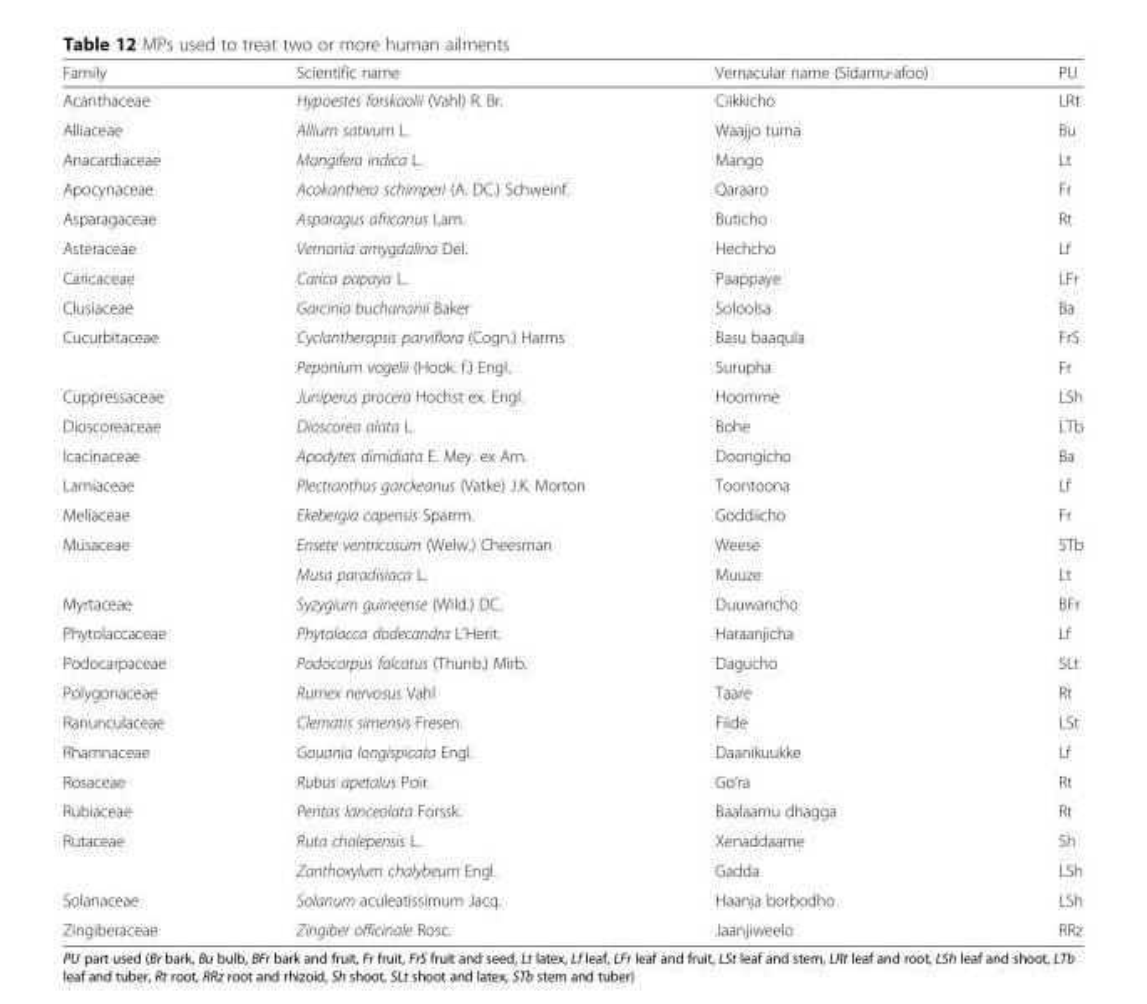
<table><thead><tr><td>Family</td><td>Scientific name</td><td>Vernacular name (Sidamu-afoo)</td><td>PU</td></tr></thead><tbody><tr><td>Acanthaceae</td><td>Hypoestes forskaolii (Vahl) R. Br.</td><td>Ciikkicho</td><td>LRt</td></tr><tr><td>Alliaceae</td><td>Allium sativum L.</td><td>Waajjo tuma</td><td>Bu</td></tr><tr><td>Anacardiaceae</td><td>Mangifera indica L.</td><td>Mango</td><td>Lt</td></tr><tr><td>Apocynaceae</td><td>Acokanthera schimperi (A. DC.) Schweinf.</td><td>Qaraaro</td><td>Fr</td></tr><tr><td>Asparagaceae</td><td>Asparagus africanus Lam.</td><td>Buticho</td><td>Rt</td></tr><tr><td>Asteraceae</td><td>Vernonia amygdalina Del.</td><td>Hechcho</td><td>Lf</td></tr><tr><td>Caricaceae</td><td>Carica papaya L.</td><td>Paappaye</td><td>LFr</td></tr><tr><td>Clusiaceae</td><td>Garcinia buchananii Baker</td><td>Soloolsa</td><td>Ba</td></tr><tr><td rowspan="2">Cucurbitaceae</td><td>Cyclantheropsis parviflora (Cogn.) Harms</td><td>Basu baaqula</td><td>FrS</td></tr><tr><td>Peponium vogelii (Hook. f.) Engl.</td><td>Surupha</td><td>Fr</td></tr><tr><td>Cuppressaceae</td><td>Juniperus procera Hochst ex. Engl.</td><td>Hoomme</td><td>LSh</td></tr><tr><td>Dioscoreaceae</td><td>Dioscorea alata L.</td><td>Bohe</td><td>LTb</td></tr><tr><td>Icacinaceae</td><td>Apodytes dimidiata E. Mey. ex Arn.</td><td>Doongicho</td><td>Ba</td></tr><tr><td>Lamiaceae</td><td>Plectranthus garckeanus (Vatke) J.K. Morton</td><td>Toontoona</td><td>Lf</td></tr><tr><td>Meliaceae</td><td>Ekebergia capensis Sparrm.</td><td>Goddiicho</td><td>Fr</td></tr><tr><td rowspan="2">Musaceae</td><td>Ensete ventricosum (Welw.) Cheesman</td><td>Weese</td><td>STb</td></tr><tr><td>Musa paradisiaca L.</td><td>Muuze</td><td>Lt</td></tr><tr><td>Myrtaceae</td><td>Syzygium guineense (Wild.) DC.</td><td>Duuwancho</td><td>BFr</td></tr><tr><td>Phytolaccaceae</td><td>Phytolacca dodecandra L’Herit.</td><td>Haraanjicha</td><td>Lf</td></tr><tr><td>Podocarpaceae</td><td>Podocarpus falcatus (Thunb.) Mirb.</td><td>Dagucho</td><td>SLt</td></tr><tr><td>Polygonaceae</td><td>Rumex nervosus Vahl</td><td>Taare</td><td>Rt</td></tr><tr><td>Ranunculaceae</td><td>Clematis simensis Fresen.</td><td>Fiide</td><td>LSt</td></tr><tr><td>Rhamnaceae</td><td>Gouania longispicata Engl.</td><td>Daanikuukke</td><td>Lf</td></tr><tr><td>Rosaceae</td><td>Rubus apetalus Poir.</td><td>Go’ra</td><td>Rt</td></tr><tr><td>Rubiaceae</td><td>Pentas lanceolata Forssk.</td><td>Baalaamu dhagga</td><td>Rt</td></tr><tr><td rowspan="2">Rutaceae</td><td>Ruta chalepensis L.</td><td>Xenaddaame</td><td>Sh</td></tr><tr><td>Zanthoxylum chalybeum Engl.</td><td>Gadda</td><td>LSh</td></tr><tr><td>Solanaceae</td><td>Solanum aculeatissimum Jacq.</td><td>Haanja borbodho</td><td>LSh</td></tr><tr><td>Zingiberaceae</td><td>Zingiber officinale Rosc.</td><td>Jaanjiweelo</td><td>RRz</td></tr></tbody></table>